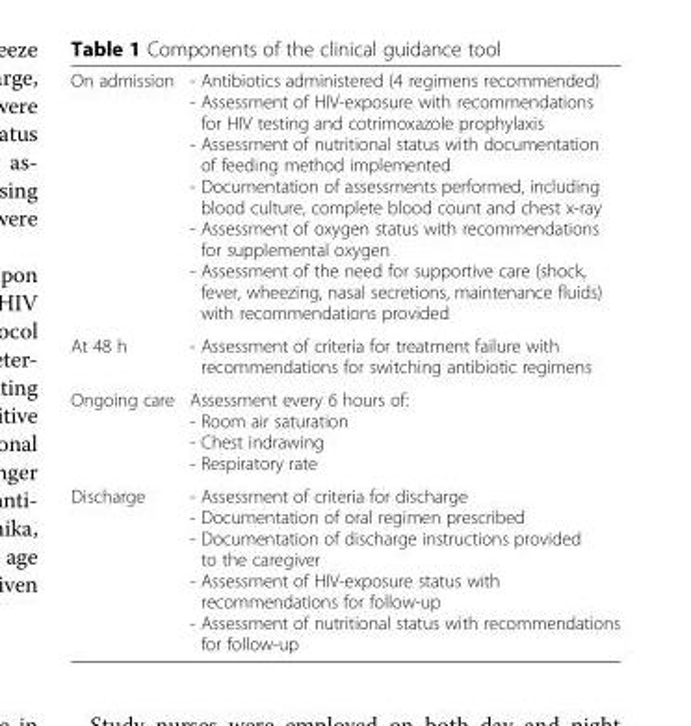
<table><tbody><tr><td>On admission</td><td>- Antibiotics administered (4 regimens recommended) - Assessment of HIV-exposure with recommendations for HIV testing and cotrimoxazole prophylaxis - Assessment of nutritional status with documentation of feeding method implemented - Documentation of assessments performed, including blood culture, complete blood count and chest x-ray - Assessment of oxygen status with recommendations for supplemental oxygen - Assessment of the need for supportive care (shock, fever, wheezing, nasal secretions, maintenance fluids) with recommendations provided</td></tr><tr><td>At 48 h</td><td>- Assessment of criteria for treatment failure with recommendations for switching antibiotic regimens</td></tr><tr><td>Ongoing care</td><td>Assessment every 6 hours of: - Room air saturation - Chest indrawing - Respiratory rate</td></tr><tr><td>Discharge</td><td>- Assessment of criteria for discharge - Documentation of oral regimen prescribed - Documentation of discharge instructions provided to the caregiver - Assessment of HIV-exposure status with recommendations for follow-up - Assessment of nutritional status with recommendations for follow-up</td></tr></tbody></table>